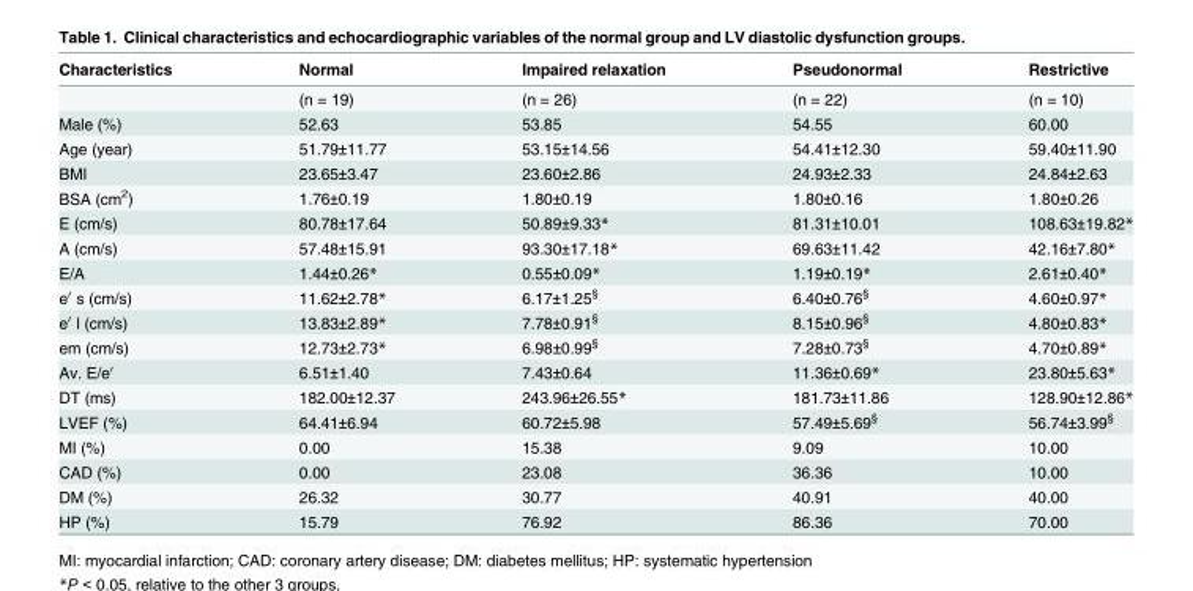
<table><thead><tr><td>Characteristics</td><td>Normal</td><td>Impaired relaxation</td><td>Pseudonormal</td><td>Restrictive</td></tr></thead><tbody><tr><td></td><td>(n = 19)</td><td>(n = 26)</td><td>(n = 22)</td><td>(n = 10)</td></tr><tr><td>Male (%)</td><td>52.63</td><td>53.85</td><td>54.55</td><td>60.00</td></tr><tr><td>Age (year)</td><td>51.79±11.77</td><td>53.15±14.56</td><td>54.41±12.30</td><td>59.40±11.90</td></tr><tr><td>BMI</td><td>23.65±3.47</td><td>23.60±2.86</td><td>24.93±2.33</td><td>24.84±2.63</td></tr><tr><td>BSA (cm<sup>2</sup>)</td><td>1.76±0.19</td><td>1.80±0.19</td><td>1.80±0.16</td><td>1.80±0.26</td></tr><tr><td>E (cm/s)</td><td>80.78±17.64</td><td>50.89±9.33*</td><td>81.31±10.01</td><td>108.63±19.82*</td></tr><tr><td>A (cm/s)</td><td>57.48±15.91</td><td>93.30±17.18*</td><td>69.63±11.42</td><td>42.16±7.80*</td></tr><tr><td>E/A</td><td>1.44±0.26*</td><td>0.55±0.09*</td><td>1.19±0.19*</td><td>2.61±0.40*</td></tr><tr><td>e′ s (cm/s)</td><td>11.62±2.78*</td><td>6.17±1.25<sup>§</sup></td><td>6.40±0.76<sup>§</sup></td><td>4.60±0.97*</td></tr><tr><td>e′ l (cm/s)</td><td>13.83±2.89*</td><td>7.78±0.91<sup>§</sup></td><td>8.15±0.96<sup>§</sup></td><td>4.80±0.83*</td></tr><tr><td>em (cm/s)</td><td>12.73±2.73*</td><td>6.98±0.99<sup>§</sup></td><td>7.28±0.73<sup>§</sup></td><td>4.70±0.89*</td></tr><tr><td>Av. E/e′</td><td>6.51±1.40</td><td>7.43±0.64</td><td>11.36±0.69*</td><td>23.80±5.63*</td></tr><tr><td>DT (ms)</td><td>182.00±12.37</td><td>243.96±26.55*</td><td>181.73±11.86</td><td>128.90±12.86*</td></tr><tr><td>LVEF (%)</td><td>64.41±6.94</td><td>60.72±5.98</td><td>57.49±5.69<sup>§</sup></td><td>56.74±3.99<sup>§</sup></td></tr><tr><td>MI (%)</td><td>0.00</td><td>15.38</td><td>9.09</td><td>10.00</td></tr><tr><td>CAD (%)</td><td>0.00</td><td>23.08</td><td>36.36</td><td>10.00</td></tr><tr><td>DM (%)</td><td>26.32</td><td>30.77</td><td>40.91</td><td>40.00</td></tr><tr><td>HP (%)</td><td>15.79</td><td>76.92</td><td>86.36</td><td>70.00</td></tr></tbody></table>